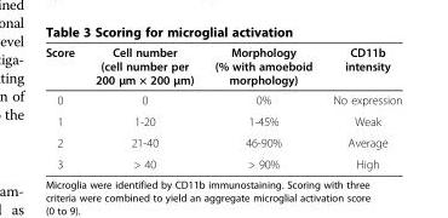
<table><thead><tr><td>Score</td><td>Cell number (cell number per 200 μm × 200 μm)</td><td>Morphology (% with amoeboid morphology)</td><td>CD11b intensity</td></tr></thead><tbody><tr><td>0</td><td>0</td><td>0%</td><td>No expression</td></tr><tr><td>1</td><td>1-20</td><td>1-45%</td><td>Weak</td></tr><tr><td>2</td><td>21-40</td><td>46-90%</td><td>Average</td></tr><tr><td>3</td><td>&gt; 40</td><td>&gt; 90%</td><td>High</td></tr></tbody></table>